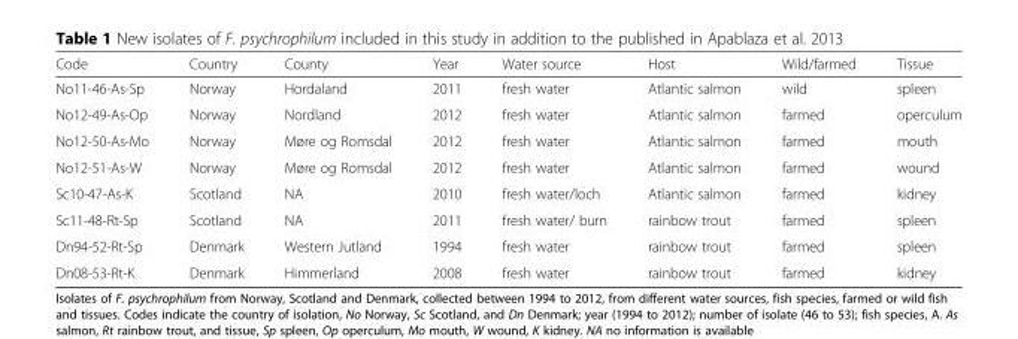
<table><thead><tr><td>Code</td><td>Country</td><td>County</td><td>Year</td><td>Water source</td><td>Host</td><td>Wild/farmed</td><td>Tissue</td></tr></thead><tbody><tr><td>No11-46-As-Sp</td><td>Norway</td><td>Hordaland</td><td>2011</td><td>fresh water</td><td>Atlantic salmon</td><td>wild</td><td>spleen</td></tr><tr><td>No12-49-As-Op</td><td>Norway</td><td>Nordland</td><td>2012</td><td>fresh water</td><td>Atlantic salmon</td><td>farmed</td><td>operculum</td></tr><tr><td>No12-50-As-Mo</td><td>Norway</td><td>Møre og Romsdal</td><td>2012</td><td>fresh water</td><td>Atlantic salmon</td><td>farmed</td><td>mouth</td></tr><tr><td>No12-51-As-W</td><td>Norway</td><td>Møre og Romsdal</td><td>2012</td><td>fresh water</td><td>Atlantic salmon</td><td>farmed</td><td>wound</td></tr><tr><td>Sc10-47-As-K</td><td>Scotland</td><td>NA</td><td>2010</td><td>fresh water/loch</td><td>Atlantic salmon</td><td>farmed</td><td>kidney</td></tr><tr><td>Sc11-48-Rt-Sp</td><td>Scotland</td><td>NA</td><td>2011</td><td>fresh water/ burn</td><td>rainbow trout</td><td>farmed</td><td>spleen</td></tr><tr><td>Dn94-52-Rt-Sp</td><td>Denmark</td><td>Western Jutland</td><td>1994</td><td>fresh water</td><td>rainbow trout</td><td>farmed</td><td>spleen</td></tr><tr><td>Dn08-53-Rt-K</td><td>Denmark</td><td>Himmerland</td><td>2008</td><td>fresh water</td><td>rainbow trout</td><td>farmed</td><td>kidney</td></tr></tbody></table>